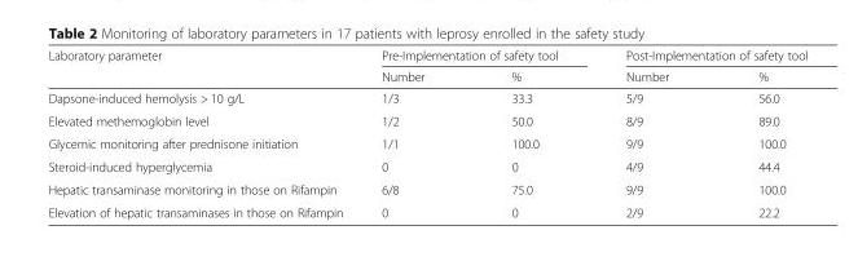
<table><thead><tr><td rowspan="2">Laboratory parameter</td><td colspan="2">Pre-Implementation of safety tool</td><td colspan="2">Post-Implementation of safety tool</td></tr><tr><td>Number</td><td>%</td><td>Number</td><td>%</td></tr></thead><tbody><tr><td>Dapsone-induced hemolysis &gt; 10 g/L</td><td>1/3</td><td>33.3</td><td>5/9</td><td>56.0</td></tr><tr><td>Elevated methemoglobin level</td><td>1/2</td><td>50.0</td><td>8/9</td><td>89.0</td></tr><tr><td>Glycemic monitoring after prednisone initiation</td><td>1/1</td><td>100.0</td><td>9/9</td><td>100.0</td></tr><tr><td>Steroid-induced hyperglycemia</td><td>0</td><td>0</td><td>4/9</td><td>44.4</td></tr><tr><td>Hepatic transaminase monitoring in those on Rifampin</td><td>6/8</td><td>75.0</td><td>9/9</td><td>100.0</td></tr><tr><td>Elevation of hepatic transaminases in those on Rifampin</td><td>0</td><td>0</td><td>2/9</td><td>22.2</td></tr></tbody></table>